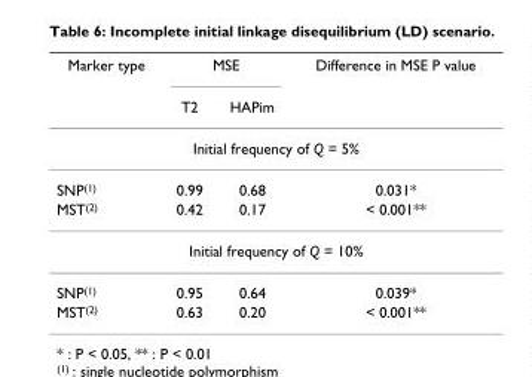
<table><thead><tr><td rowspan="2">Marker type</td><td colspan="2">MSE</td><td rowspan="2">Difference in MSE P value</td></tr><tr><td>T2</td><td>HAPim</td></tr></thead><tbody><tr><td colspan="4">Initial frequency of Q = 5%</td></tr><tr><td>SNP(1)</td><td>0.99</td><td>0.68</td><td>0.031*</td></tr><tr><td>MST(2)</td><td>0.42</td><td>0.17</td><td>&lt; 0.001**</td></tr><tr><td colspan="4">Initial frequency of Q = 10%</td></tr><tr><td>SNP(1)</td><td>0.95</td><td>0.64</td><td>0.039*</td></tr><tr><td>MST(2)</td><td>0.63</td><td>0.20</td><td>&lt; 0.001**</td></tr></tbody></table>